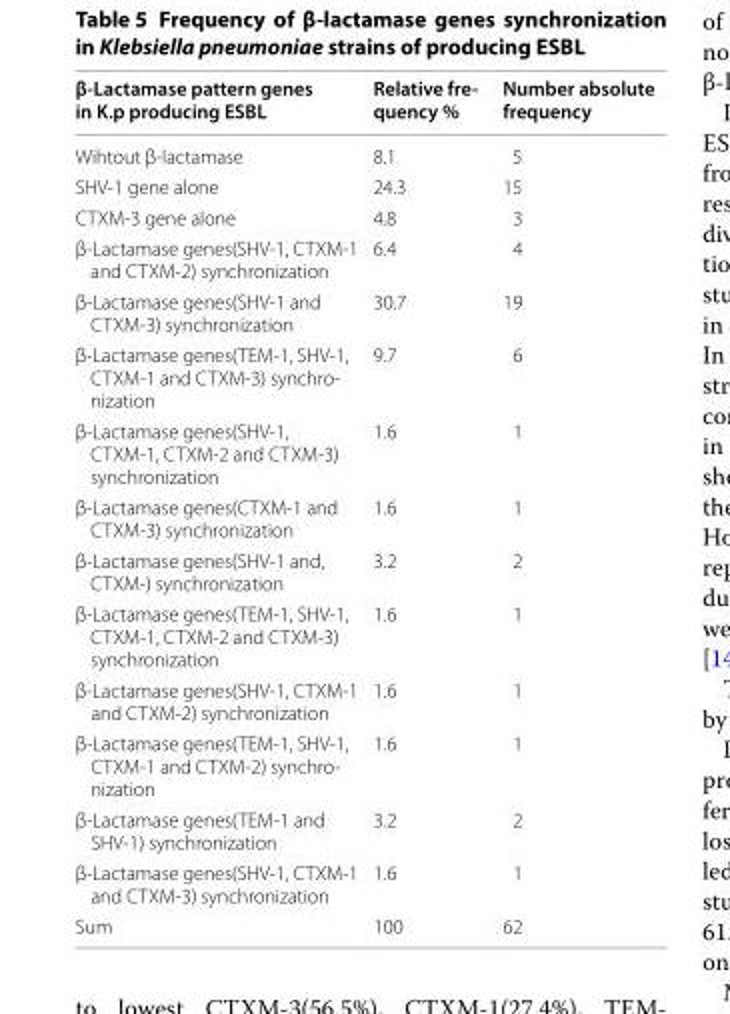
<table><thead><tr><td>β‑Lactamase pattern genes in K.p producing ESBL</td><td>Relative fre‑ quency %</td><td>Number absolute frequency</td></tr></thead><tbody><tr><td>Wihtout β-lactamase</td><td>8.1</td><td>5</td></tr><tr><td>SHV-1 gene alone</td><td>24.3</td><td>15</td></tr><tr><td>CTXM-3 gene alone</td><td>4.8</td><td>3</td></tr><tr><td>β-Lactamase genes(SHV-1, CTXM-1 and CTXM-2) synchronization</td><td>6.4</td><td>4</td></tr><tr><td>β-Lactamase genes(SHV-1 and CTXM-3) synchronization</td><td>30.7</td><td>19</td></tr><tr><td>β-Lactamase genes(TEM-1, SHV-1, CTXM-1 and CTXM-3) synchro- nization</td><td>9.7</td><td>6</td></tr><tr><td>β-Lactamase genes(SHV-1, CTXM-1, CTXM-2 and CTXM-3) synchronization</td><td>1.6</td><td>1</td></tr><tr><td>β-Lactamase genes(CTXM-1 and CTXM-3) synchronization</td><td>1.6</td><td>1</td></tr><tr><td>β-Lactamase genes(SHV-1 and, CTXM-) synchronization</td><td>3.2</td><td>2</td></tr><tr><td>β-Lactamase genes(TEM-1, SHV-1, CTXM-1, CTXM-2 and CTXM-3) synchronization</td><td>1.6</td><td>1</td></tr><tr><td>β-Lactamase genes(SHV-1, CTXM-1 and CTXM-2) synchronization</td><td>1.6</td><td>1</td></tr><tr><td>β-Lactamase genes(TEM-1, SHV-1, CTXM-1 and CTXM-2) synchro- nization</td><td>1.6</td><td>1</td></tr><tr><td>β-Lactamase genes(TEM-1 and SHV-1) synchronization</td><td>3.2</td><td>2</td></tr><tr><td>β-Lactamase genes(SHV-1, CTXM-1 and CTXM-3) synchronization</td><td>1.6</td><td>1</td></tr><tr><td>Sum</td><td>100</td><td>62</td></tr></tbody></table>